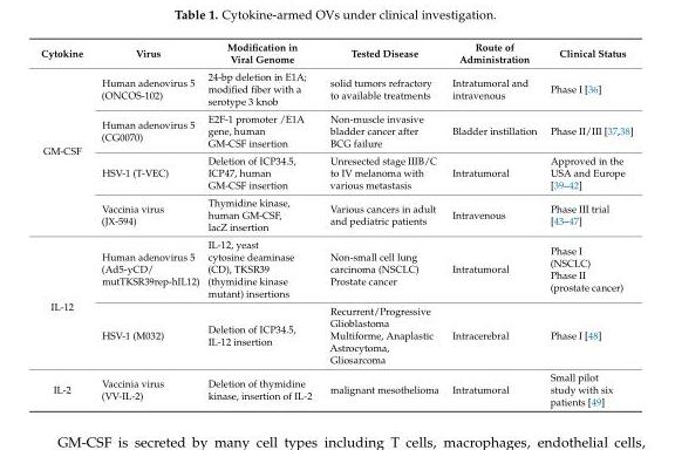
<table><thead><tr><td>Cytokine</td><td>Virus</td><td>Modification in Viral Genome</td><td>Tested Disease</td><td>Route of Administration</td><td>Clinical Status</td></tr></thead><tbody><tr><td rowspan="4">GM-CSF</td><td>Human adenovirus 5 (ONCOS-102)</td><td>24-bp deletion in E1A; modified fiber with a serotype 3 knob</td><td>solid tumors refractory to available treatments</td><td>Intratumoral and intravenous</td><td>Phase I [36]</td></tr><tr><td>Human adenovirus 5 (CG0070)</td><td>E2F-1 promoter /E1A gene, human GM-CSF insertion</td><td>Non-muscle invasive bladder cancer after BCG failure</td><td>Bladder instillation</td><td>Phase II/III [37,38]</td></tr><tr><td>HSV-1 (T-VEC)</td><td>Deletion of ICP34.5, ICP47, human GM-CSF insertion</td><td>Unresected stage IIIB/C to IV melanoma with various metastasis</td><td>Intratumoral</td><td>Approved in the USA and Europe [39–42]</td></tr><tr><td>Vaccinia virus (JX-594)</td><td>Thymidine kinase, human GM-CSF, lacZ insertion</td><td>Various cancers in adult and pediatric patients</td><td>Intravenous</td><td>Phase III trial [43–47]</td></tr><tr><td rowspan="2">IL-12</td><td>Human adenovirus 5 (Ad5-yCD/ mutTKSR39rep-hIL12)</td><td>IL-12, yeast cytosine deaminase (CD), TKSR39 (thymidine kinase mutant) insertions</td><td>Non-small cell lung carcinoma (NSCLC) Prostate cancer</td><td>Intratumoral</td><td>Phase I (NSCLC) Phase II (prostate cancer)</td></tr><tr><td>HSV-1 (M032)</td><td>Deletion of ICP34.5, IL-12 insertion</td><td>Recurrent/Progressive Glioblastoma Multiforme, Anaplastic Astrocytoma, Gliosarcoma</td><td>Intracerebral</td><td>Phase I [48]</td></tr><tr><td>IL-2</td><td>Vaccinia virus (VV-IL-2)</td><td>Deletion of thymidine kinase, insertion of IL-2</td><td>malignant mesothelioma</td><td>Intratumoral</td><td>Small pilot study with six patients [49]</td></tr></tbody></table>